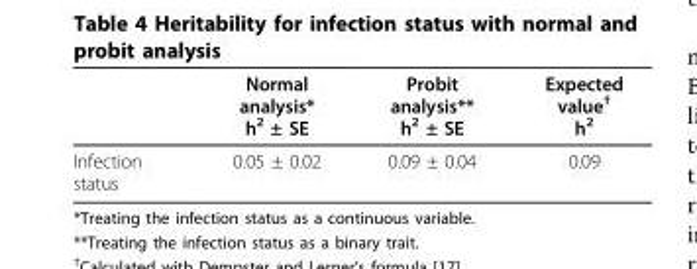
<table><thead><tr><td></td><td>Normal analysis* h<sup>2</sup> ± SE</td><td>Probit analysis** h<sup>2</sup> ± SE</td><td>Expected value<sup>†</sup> h<sup>2</sup></td></tr></thead><tbody><tr><td>Infection status</td><td>0.05 ± 0.02</td><td>0.09 ± 0.04</td><td>0.09</td></tr></tbody></table>